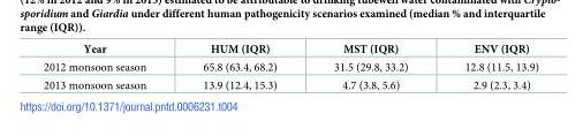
<table><thead><tr><td>Year</td><td>HUM (IQR)</td><td>MST (IQR)</td><td>ENV (IQR)</td></tr></thead><tbody><tr><td>2012 monsoon season</td><td>65.8 (63.4, 68.2)</td><td>31.5 (29.8, 33.2)</td><td>12.8 (11.5, 13.9)</td></tr><tr><td>2013 monsoon season</td><td>13.9 (12.4, 15.3)</td><td>4.7 (3.8, 5.6)</td><td>2.9 (2.3, 3.4)</td></tr></tbody></table>